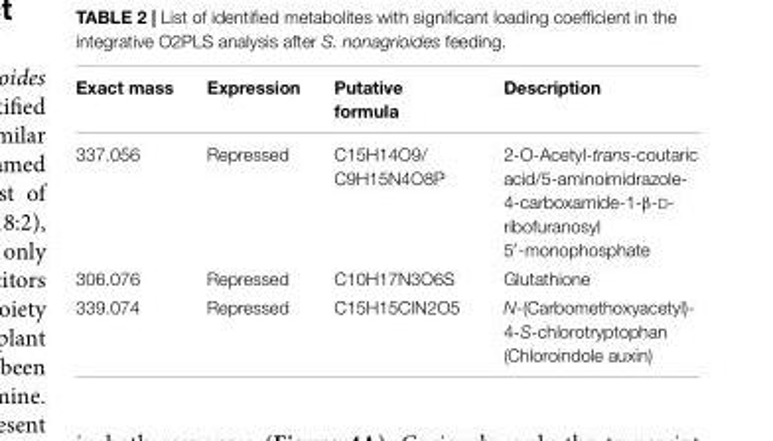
<table><thead><tr><td>Exact mass</td><td>Expression</td><td>Putative formula</td><td>Description</td></tr></thead><tbody><tr><td>337.056</td><td>Repressed</td><td>C15H14O9/ C9H15N4O8P</td><td>2-O-Acetyl-trans-coutaric acid/5-aminoimidrazole- 4-carboxamide-1-β-D- ribofuranosyl 5′-monophosphate</td></tr><tr><td>306.076</td><td>Repressed</td><td>C10H17N3O6S</td><td>Glutathione</td></tr><tr><td>339.074</td><td>Repressed</td><td>C15H15CIN2O5</td><td>N-(Carbomethoxyacetyl)- 4-S-chlorotryptophan (Chloroindole auxin)</td></tr></tbody></table>